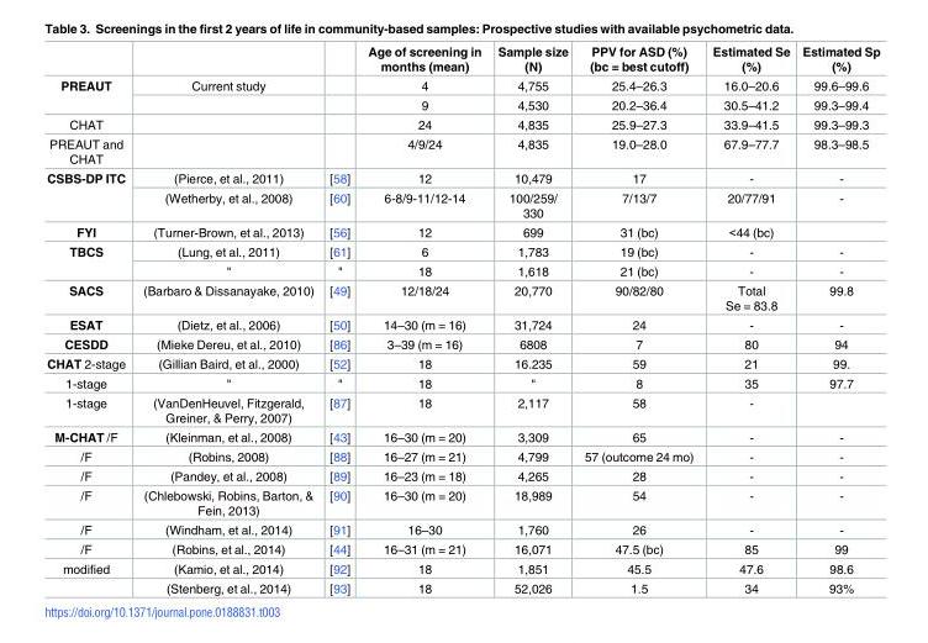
<table><thead><tr><td></td><td></td><td></td><td>Age of screening in months (mean)</td><td>Sample size (N)</td><td>PPV for ASD (%) (bc = best cutoff)</td><td>Estimated Se (%)</td><td>Estimated Sp (%)</td></tr></thead><tbody><tr><td rowspan="2">PREAUT</td><td>Current study</td><td></td><td>4</td><td>4,755</td><td>25.4–26.3</td><td>16.0–20.6</td><td>99.6–99.6</td></tr><tr><td></td><td></td><td>9</td><td>4,530</td><td>20.2–36.4</td><td>30.5–41.2</td><td>99.3–99.4</td></tr><tr><td>CHAT</td><td></td><td></td><td>24</td><td>4,835</td><td>25.9–27.3</td><td>33.9–41.5</td><td>99.3–99.3</td></tr><tr><td>PREAUT and CHAT</td><td></td><td></td><td>4/9/24</td><td>4,835</td><td>19.0–28.0</td><td>67.9–77.7</td><td>98.3–98.5</td></tr><tr><td rowspan="2">CSBS-DP ITC</td><td>(Pierce, et al., 2011)</td><td>[58]</td><td>12</td><td>10,479</td><td>17</td><td>-</td><td>-</td></tr><tr><td>(Wetherby, et al., 2008)</td><td>[60]</td><td>6-8/9-11/12-14</td><td>100/259/ 330</td><td>7/13/7</td><td>20/77/91</td><td>-</td></tr><tr><td>FYI</td><td>(Turner-Brown, et al., 2013)</td><td>[56]</td><td>12</td><td>699</td><td>31 (bc)</td><td>&lt;44 (bc)</td><td></td></tr><tr><td rowspan="2">TBCS</td><td>(Lung, et al., 2011)</td><td>[61]</td><td>6</td><td>1,783</td><td>19 (bc)</td><td>-</td><td>-</td></tr><tr><td>&quot;</td><td>&quot;</td><td>18</td><td>1,618</td><td>21 (bc)</td><td>-</td><td>-</td></tr><tr><td>SACS</td><td>(Barbaro &amp; Dissanayake, 2010)</td><td>[49]</td><td>12/18/24</td><td>20,770</td><td>90/82/80</td><td>Total Se = 83.8</td><td>99.8</td></tr><tr><td>ESAT</td><td>(Dietz, et al., 2006)</td><td>[50]</td><td>14–30 (m = 16)</td><td>31,724</td><td>24</td><td>-</td><td>-</td></tr><tr><td>CESDD</td><td>(Mieke Dereu, et al., 2010)</td><td>[86]</td><td>3–39 (m = 16)</td><td>6808</td><td>7</td><td>80</td><td>94</td></tr><tr><td>CHAT 2-stage</td><td>(Gillian Baird, et al., 2000)</td><td>[52]</td><td>18</td><td>16.235</td><td>59</td><td>21</td><td>99.</td></tr><tr><td>1-stage</td><td>&quot;</td><td>&quot;</td><td>18</td><td>&quot;</td><td>8</td><td>35</td><td>97.7</td></tr><tr><td>1-stage</td><td>(VanDenHeuvel, Fitzgerald, Greiner, &amp; Perry, 2007)</td><td>[87]</td><td>18</td><td>2,117</td><td>58</td><td>-</td><td></td></tr><tr><td>M-CHAT /F</td><td>(Kleinman, et al., 2008)</td><td>[43]</td><td>16–30 (m = 20)</td><td>3,309</td><td>65</td><td>-</td><td>-</td></tr><tr><td>/F</td><td>(Robins, 2008)</td><td>[88]</td><td>16–27 (m = 21)</td><td>4,799</td><td>57 (outcome 24 mo)</td><td>-</td><td>-</td></tr><tr><td>/F</td><td>(Pandey, et al., 2008)</td><td>[89]</td><td>16–23 (m = 18)</td><td>4,265</td><td>28</td><td>-</td><td>-</td></tr><tr><td>/F</td><td>(Chlebowski, Robins, Barton, &amp; Fein, 2013)</td><td>[90]</td><td>16–30 (m = 20)</td><td>18,989</td><td>54</td><td>-</td><td>-</td></tr><tr><td>/F</td><td>(Windham, et al., 2014)</td><td>[91]</td><td>16–30</td><td>1,760</td><td>26</td><td>-</td><td>-</td></tr><tr><td>/F</td><td>(Robins, et al., 2014)</td><td>[44]</td><td>16–31 (m = 21)</td><td>16,071</td><td>47.5 (bc)</td><td>85</td><td>99</td></tr><tr><td rowspan="2">modified</td><td>(Kamio, et al., 2014)</td><td>[92]</td><td>18</td><td>1,851</td><td>45.5</td><td>47.6</td><td>98.6</td></tr><tr><td>(Stenberg, et al., 2014)</td><td>[93]</td><td>18</td><td>52,026</td><td>1.5</td><td>34</td><td>93%</td></tr></tbody></table>